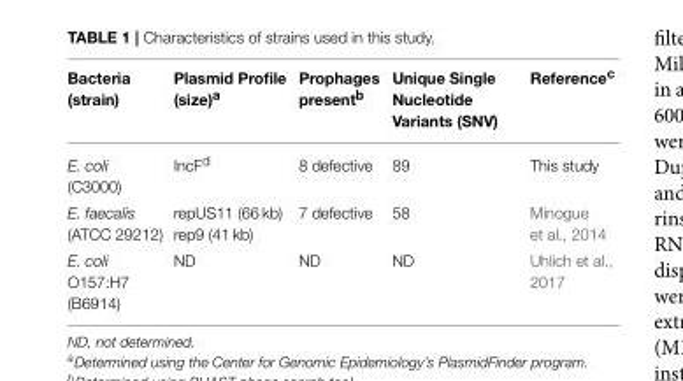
<table><thead><tr><td>Bacteria (strain)</td><td>Plasmid Profile (size)<sup>a</sup></td><td>Prophages present<sup>b</sup></td><td>Unique Single Nucleotide Variants (SNV)</td><td>Reference<sup>c</sup></td></tr></thead><tbody><tr><td>E. coli (C3000)</td><td>IncF<sup>d</sup></td><td>8 defective</td><td>89</td><td>This study</td></tr><tr><td>E. faecalis (ATCC 29212)</td><td>repUS11 (66 kb) rep9 (41 kb)</td><td>7 defective</td><td>58</td><td>Minogue et al., 2014</td></tr><tr><td>E. coli O157:H7 (B6914)</td><td>ND</td><td>ND</td><td>ND</td><td>Uhlich et al., 2017</td></tr></tbody></table>